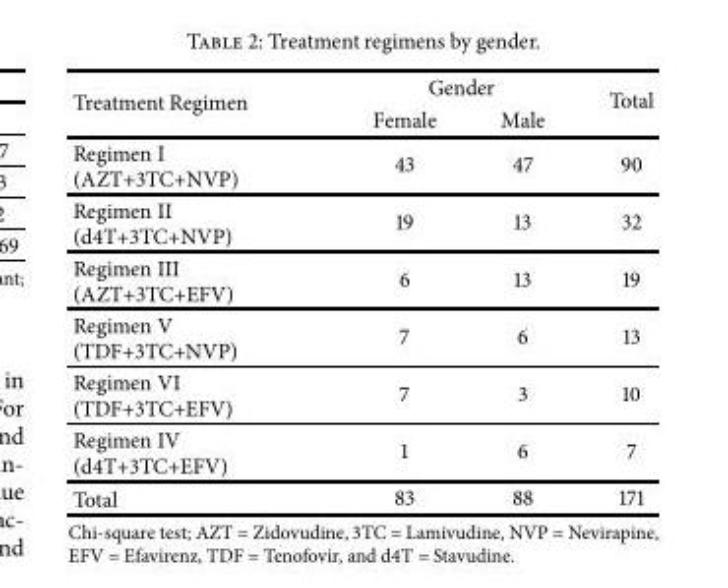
<table><thead><tr><td rowspan="2">Treatment Regimen</td><td colspan="2">Gender</td><td rowspan="2">Total</td></tr><tr><td>Female</td><td>Male</td></tr></thead><tbody><tr><td>Regimen I (AZT+3TC+NVP)</td><td>43</td><td>47</td><td>90</td></tr><tr><td>Regimen II (d4T+3TC+NVP)</td><td>19</td><td>13</td><td>32</td></tr><tr><td>Regimen III (AZT+3TC+EFV)</td><td>6</td><td>13</td><td>19</td></tr><tr><td>Regimen V (TDF+3TC+NVP)</td><td>7</td><td>6</td><td>13</td></tr><tr><td>Regimen VI (TDF+3TC+EFV)</td><td>7</td><td>3</td><td>10</td></tr><tr><td>Regimen IV (d4T+3TC+EFV)</td><td>1</td><td>6</td><td>7</td></tr><tr><td>Total</td><td>83</td><td>88</td><td>171</td></tr></tbody></table>